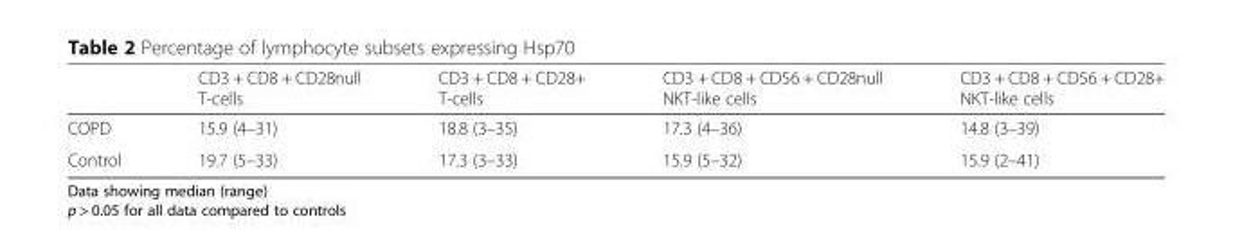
<table><thead><tr><td></td><td>CD3 + CD8 + CD28null T-cells</td><td>CD3 + CD8 + CD28+ T-cells</td><td>CD3 + CD8 + CD56 + CD28null NKT-like cells</td><td>CD3 + CD8 + CD56 + CD28+ NKT-like cells</td></tr></thead><tbody><tr><td>COPD</td><td>15.9 (4–31)</td><td>18.8 (3–35)</td><td>17.3 (4–36)</td><td>14.8 (3–39)</td></tr><tr><td>Control</td><td>19.7 (5–33)</td><td>17.3 (3–33)</td><td>15.9 (5–32)</td><td>15.9 (2–41)</td></tr></tbody></table>